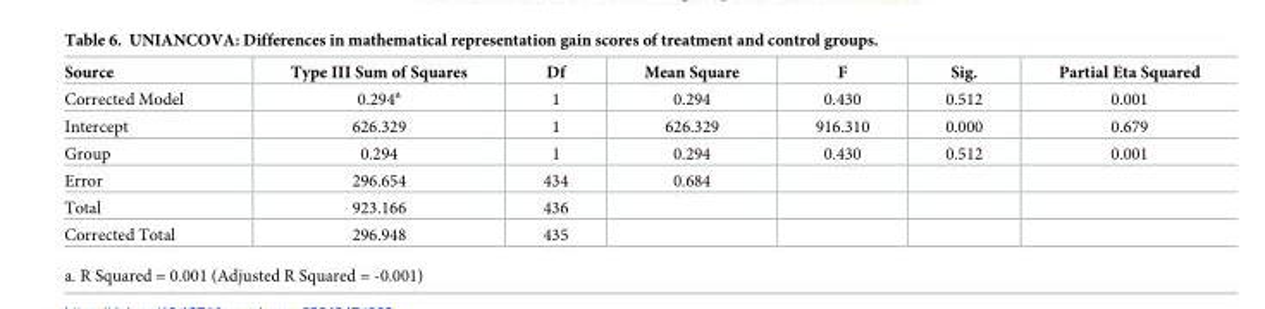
<table><thead><tr><td>Source</td><td>Type III Sum of Squares</td><td>Df</td><td>Mean Square</td><td>F</td><td>Sig.</td><td>Partial Eta Squared</td></tr></thead><tbody><tr><td>Corrected Model</td><td>0.294<sup>a</sup></td><td>1</td><td>0.294</td><td>0.430</td><td>0.512</td><td>0.001</td></tr><tr><td>Intercept</td><td>626.329</td><td>1</td><td>626.329</td><td>916.310</td><td>0.000</td><td>0.679</td></tr><tr><td>Group</td><td>0.294</td><td>1</td><td>0.294</td><td>0.430</td><td>0.512</td><td>0.001</td></tr><tr><td>Error</td><td>296.654</td><td>434</td><td>0.684</td><td></td><td></td><td></td></tr><tr><td>Total</td><td>923.166</td><td>436</td><td></td><td></td><td></td><td></td></tr><tr><td>Corrected Total</td><td>296.948</td><td>435</td><td></td><td></td><td></td><td></td></tr></tbody></table>